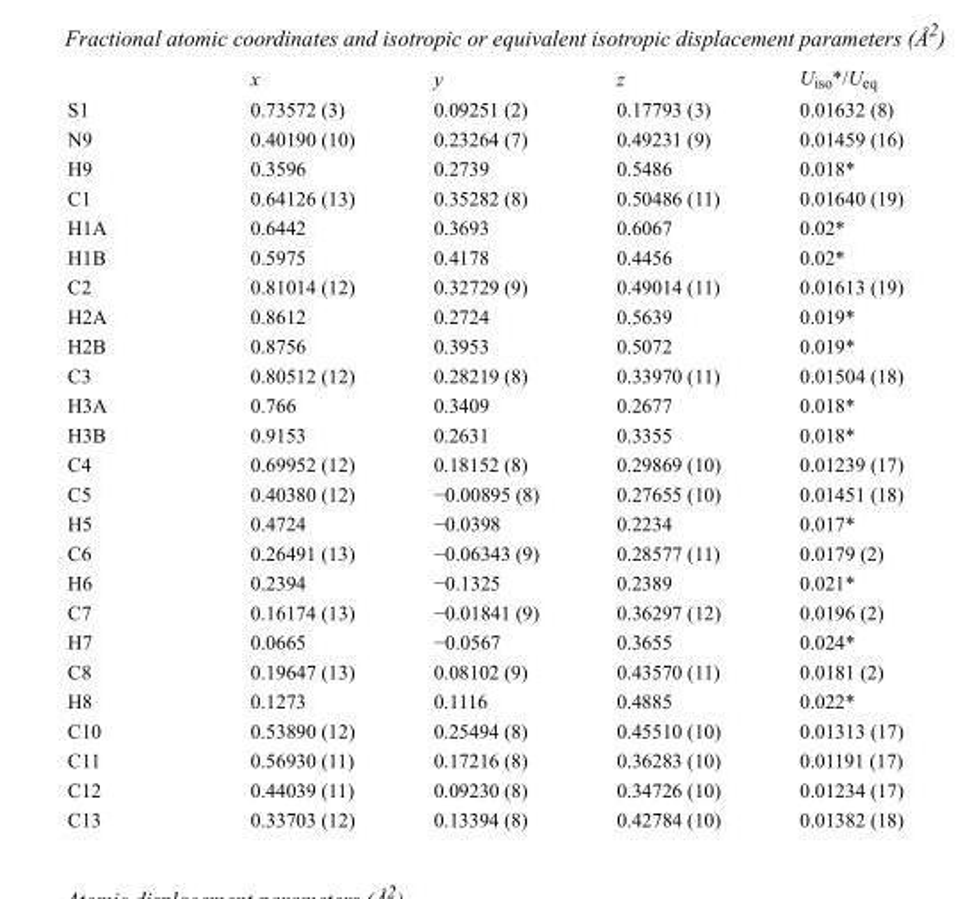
<table><thead><tr><td></td><td>x</td><td>y</td><td>z</td><td>U<sub>iso</sub>*/U<sub>eq</sub></td></tr></thead><tbody><tr><td>S1</td><td>0.73572 (3)</td><td>0.09251 (2)</td><td>0.17793 (3)</td><td>0.01632 (8)</td></tr><tr><td>N9</td><td>0.40190 (10)</td><td>0.23264 (7)</td><td>0.49231 (9)</td><td>0.01459 (16)</td></tr><tr><td>H9</td><td>0.3596</td><td>0.2739</td><td>0.5486</td><td>0.018*</td></tr><tr><td>C1</td><td>0.64126 (13)</td><td>0.35282 (8)</td><td>0.50486 (11)</td><td>0.01640 (19)</td></tr><tr><td>H1A</td><td>0.6442</td><td>0.3693</td><td>0.6067</td><td>0.02*</td></tr><tr><td>H1B</td><td>0.5975</td><td>0.4178</td><td>0.4456</td><td>0.02*</td></tr><tr><td>C2</td><td>0.81014 (12)</td><td>0.32729 (9)</td><td>0.49014 (11)</td><td>0.01613 (19)</td></tr><tr><td>H2A</td><td>0.8612</td><td>0.2724</td><td>0.5639</td><td>0.019*</td></tr><tr><td>H2B</td><td>0.8756</td><td>0.3953</td><td>0.5072</td><td>0.019*</td></tr><tr><td>C3</td><td>0.80512 (12)</td><td>0.28219 (8)</td><td>0.33970 (11)</td><td>0.01504 (18)</td></tr><tr><td>H3A</td><td>0.766</td><td>0.3409</td><td>0.2677</td><td>0.018*</td></tr><tr><td>H3B</td><td>0.9153</td><td>0.2631</td><td>0.3355</td><td>0.018*</td></tr><tr><td>C4</td><td>0.69952 (12)</td><td>0.18152 (8)</td><td>0.29869 (10)</td><td>0.01239 (17)</td></tr><tr><td>C5</td><td>0.40380 (12)</td><td>−0.00895 (8)</td><td>0.27655 (10)</td><td>0.01451 (18)</td></tr><tr><td>H5</td><td>0.4724</td><td>−0.0398</td><td>0.2234</td><td>0.017*</td></tr><tr><td>C6</td><td>0.26491 (13)</td><td>−0.06343 (9)</td><td>0.28577 (11)</td><td>0.0179 (2)</td></tr><tr><td>H6</td><td>0.2394</td><td>−0.1325</td><td>0.2389</td><td>0.021*</td></tr><tr><td>C7</td><td>0.16174 (13)</td><td>−0.01841 (9)</td><td>0.36297 (12)</td><td>0.0196 (2)</td></tr><tr><td>H7</td><td>0.0665</td><td>−0.0567</td><td>0.3655</td><td>0.024*</td></tr><tr><td>C8</td><td>0.19647 (13)</td><td>0.08102 (9)</td><td>0.43570 (11)</td><td>0.0181 (2)</td></tr><tr><td>H8</td><td>0.1273</td><td>0.1116</td><td>0.4885</td><td>0.022*</td></tr><tr><td>C10</td><td>0.53890 (12)</td><td>0.25494 (8)</td><td>0.45510 (10)</td><td>0.01313 (17)</td></tr><tr><td>C11</td><td>0.56930 (11)</td><td>0.17216 (8)</td><td>0.36283 (10)</td><td>0.01191 (17)</td></tr><tr><td>C12</td><td>0.44039 (11)</td><td>0.09230 (8)</td><td>0.34726 (10)</td><td>0.01234 (17)</td></tr><tr><td>C13</td><td>0.33703 (12)</td><td>0.13394 (8)</td><td>0.42784 (10)</td><td>0.01382 (18)</td></tr></tbody></table>